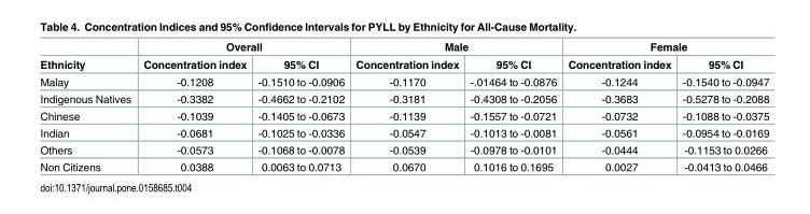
<table><thead><tr><td rowspan="2">Ethnicity</td><td colspan="2">Overall</td><td colspan="2">Male</td><td colspan="2">Female</td></tr><tr><td>Concentration index</td><td>95% CI</td><td>Concentration index</td><td>95% CI</td><td>Concentration index</td><td>95% CI</td></tr></thead><tbody><tr><td>Malay</td><td>-0.1208</td><td>-0.1510 to -0.0906</td><td>-0.1170</td><td>-.01464 to -0.0876</td><td>-0.1244</td><td>-0.1540 to -0.0947</td></tr><tr><td>Indigenous Natives</td><td>-0.3382</td><td>-0.4662 to -0.2102</td><td>-0.3181</td><td>-0.4308 to -0.2056</td><td>-0.3683</td><td>-0.5278 to -0.2088</td></tr><tr><td>Chinese</td><td>-0.1039</td><td>-0.1405 to -0.0673</td><td>-0.1139</td><td>-0.1557 to -0.0721</td><td>-0.0732</td><td>-0.1088 to -0.0375</td></tr><tr><td>Indian</td><td>-0.0681</td><td>-0.1025 to -0.0336</td><td>-0.0547</td><td>-0.1013 to -0.0081</td><td>-0.0561</td><td>-0.0954 to -0.0169</td></tr><tr><td>Others</td><td>-0.0573</td><td>-0.1068 to -0.0078</td><td>-0.0539</td><td>-0.0978 to -0.0101</td><td>-0.0444</td><td>-0.1153 to 0.0266</td></tr><tr><td>Non Citizens</td><td>0.0388</td><td>0.0063 to 0.0713</td><td>0.0670</td><td>0.1016 to 0.1695</td><td>0.0027</td><td>-0.0413 to 0.0466</td></tr></tbody></table>